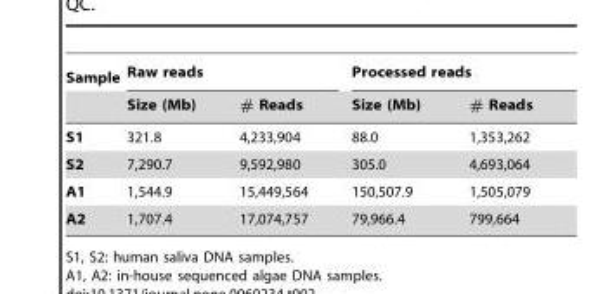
<table><thead><tr><td rowspan="2">Sample</td><td colspan="2">Raw reads</td><td colspan="2">Processed reads</td></tr><tr><td>Size (Mb)</td><td># Reads</td><td>Size (Mb)</td><td># Reads</td></tr></thead><tbody><tr><td>S1</td><td>321.8</td><td>4,233,904</td><td>88.0</td><td>1,353,262</td></tr><tr><td>S2</td><td>7,290.7</td><td>9,592,980</td><td>305.0</td><td>4,693,064</td></tr><tr><td>A1</td><td>1,544.9</td><td>15,449,564</td><td>150,507.9</td><td>1,505,079</td></tr><tr><td>A2</td><td>1,707.4</td><td>17,074,757</td><td>79,966.4</td><td>799,664</td></tr></tbody></table>